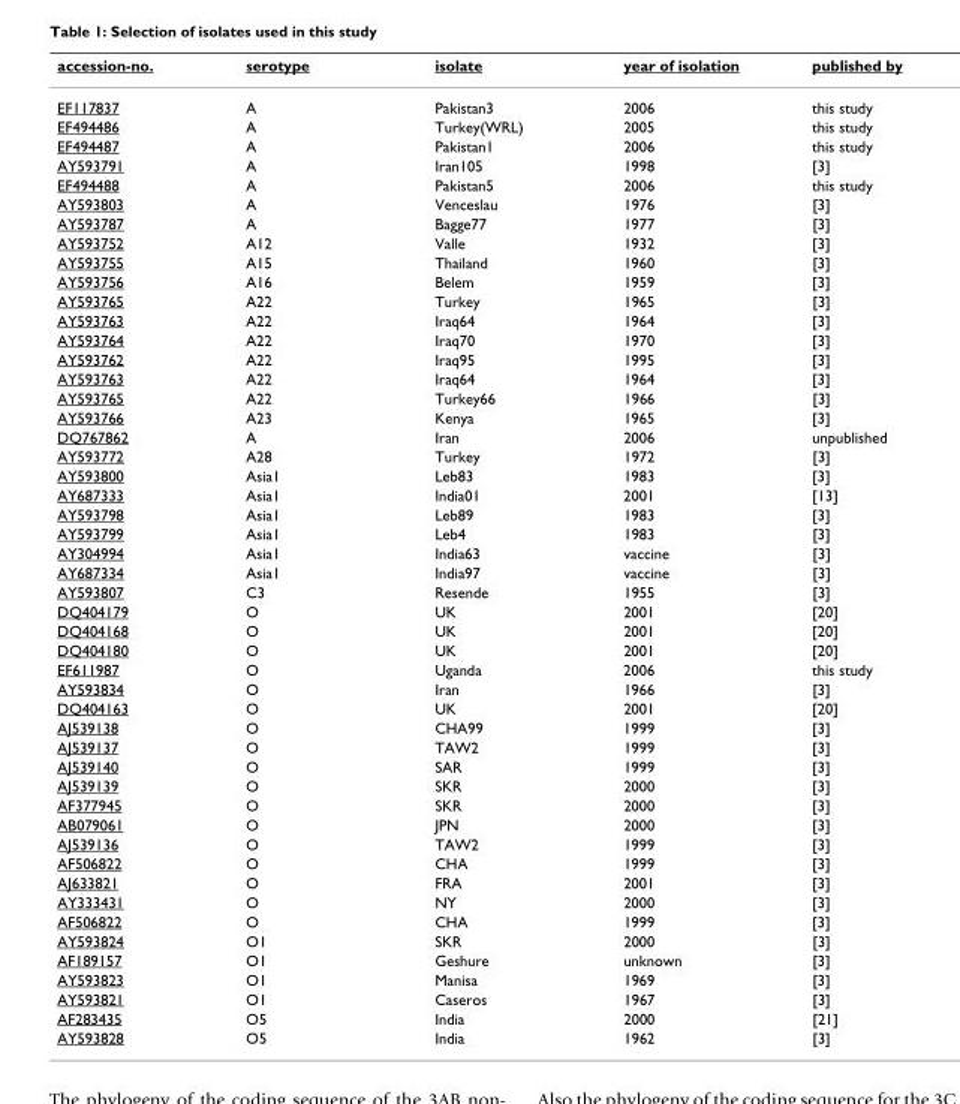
<table><thead><tr><td>accession-no.</td><td>serotype</td><td>isolate</td><td>year of isolation</td><td>published by</td></tr></thead><tbody><tr><td>EF117837</td><td>A</td><td>Pakistan3</td><td>2006</td><td>this study</td></tr><tr><td>EF494486</td><td>A</td><td>Turkey(WRL)</td><td>2005</td><td>this study</td></tr><tr><td>EF494487</td><td>A</td><td>Pakistan1</td><td>2006</td><td>this study</td></tr><tr><td>AY593791</td><td>A</td><td>Iran105</td><td>1998</td><td>[3]</td></tr><tr><td>EF494488</td><td>A</td><td>Pakistan5</td><td>2006</td><td>this study</td></tr><tr><td>AY593803</td><td>A</td><td>Venceslau</td><td>1976</td><td>[3]</td></tr><tr><td>AY593787</td><td>A</td><td>Bagge77</td><td>1977</td><td>[3]</td></tr><tr><td>AY593752</td><td>A12</td><td>Valle</td><td>1932</td><td>[3]</td></tr><tr><td>AY593755</td><td>A15</td><td>Thailand</td><td>1960</td><td>[3]</td></tr><tr><td>AY593756</td><td>A16</td><td>Belem</td><td>1959</td><td>[3]</td></tr><tr><td>AY593765</td><td>A22</td><td>Turkey</td><td>1965</td><td>[3]</td></tr><tr><td>AY593763</td><td>A22</td><td>Iraq64</td><td>1964</td><td>[3]</td></tr><tr><td>AY593764</td><td>A22</td><td>Iraq70</td><td>1970</td><td>[3]</td></tr><tr><td>AY593762</td><td>A22</td><td>Iraq95</td><td>1995</td><td>[3]</td></tr><tr><td>AY593763</td><td>A22</td><td>Iraq64</td><td>1964</td><td>[3]</td></tr><tr><td>AY593765</td><td>A22</td><td>Turkey66</td><td>1966</td><td>[3]</td></tr><tr><td>AY593766</td><td>A23</td><td>Kenya</td><td>1965</td><td>[3]</td></tr><tr><td>DQ767862</td><td>A</td><td>Iran</td><td>2006</td><td>unpublished</td></tr><tr><td>AY593772</td><td>A28</td><td>Turkey</td><td>1972</td><td>[3]</td></tr><tr><td>AY593800</td><td>Asia1</td><td>Leb83</td><td>1983</td><td>[3]</td></tr><tr><td>AY687333</td><td>Asia1</td><td>India01</td><td>2001</td><td>[13]</td></tr><tr><td>AY593798</td><td>Asia1</td><td>Leb89</td><td>1983</td><td>[3]</td></tr><tr><td>AY593799</td><td>Asia1</td><td>Leb4</td><td>1983</td><td>[3]</td></tr><tr><td>AY304994</td><td>Asia1</td><td>India63</td><td>vaccine</td><td>[3]</td></tr><tr><td>AY687334</td><td>Asia1</td><td>India97</td><td>vaccine</td><td>[3]</td></tr><tr><td>AY593807</td><td>C3</td><td>Resende</td><td>1955</td><td>[3]</td></tr><tr><td>DQ404179</td><td>O</td><td>UK</td><td>2001</td><td>[20]</td></tr><tr><td>DQ404168</td><td>O</td><td>UK</td><td>2001</td><td>[20]</td></tr><tr><td>DQ404180</td><td>O</td><td>UK</td><td>2001</td><td>[20]</td></tr><tr><td>EF611987</td><td>O</td><td>Uganda</td><td>2006</td><td>this study</td></tr><tr><td>AY593834</td><td>O</td><td>Iran</td><td>1966</td><td>[3]</td></tr><tr><td>DQ404163</td><td>O</td><td>UK</td><td>2001</td><td>[20]</td></tr><tr><td>AJ539138</td><td>O</td><td>CHA99</td><td>1999</td><td>[3]</td></tr><tr><td>AJ539137</td><td>O</td><td>TAW2</td><td>1999</td><td>[3]</td></tr><tr><td>AJ539140</td><td>O</td><td>SAR</td><td>1999</td><td>[3]</td></tr><tr><td>AJ539139</td><td>O</td><td>SKR</td><td>2000</td><td>[3]</td></tr><tr><td>AF377945</td><td>O</td><td>SKR</td><td>2000</td><td>[3]</td></tr><tr><td>AB079061</td><td>O</td><td>JPN</td><td>2000</td><td>[3]</td></tr><tr><td>AJ539136</td><td>O</td><td>TAW2</td><td>1999</td><td>[3]</td></tr><tr><td>AF506822</td><td>O</td><td>CHA</td><td>1999</td><td>[3]</td></tr><tr><td>AJ633821</td><td>O</td><td>FRA</td><td>2001</td><td>[3]</td></tr><tr><td>AY333431</td><td>O</td><td>NY</td><td>2000</td><td>[3]</td></tr><tr><td>AF506822</td><td>O</td><td>CHA</td><td>1999</td><td>[3]</td></tr><tr><td>AY593824</td><td>O1</td><td>SKR</td><td>2000</td><td>[3]</td></tr><tr><td>AF189157</td><td>O1</td><td>Geshure</td><td>unknown</td><td>[3]</td></tr><tr><td>AY593823</td><td>O1</td><td>Manisa</td><td>1969</td><td>[3]</td></tr><tr><td>AY593821</td><td>O1</td><td>Caseros</td><td>1967</td><td>[3]</td></tr><tr><td>AF283435</td><td>O5</td><td>India</td><td>2000</td><td>[21]</td></tr><tr><td>AY593828</td><td>O5</td><td>India</td><td>1962</td><td>[3]</td></tr></tbody></table>